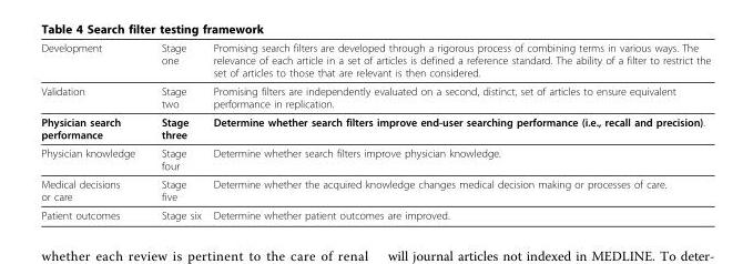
<table><thead><tr><td>Development</td><td>Stage one</td><td>Promising search filters are developed through a rigorous process of combining terms in various ways. The relevance of each article in a set of articles is defined a reference standard. The ability of a filter to restrict the set of articles to those that are relevant is then considered.</td></tr></thead><tbody><tr><td>Validation</td><td>Stage two</td><td>Promising filters are independently evaluated on a second, distinct, set of articles to ensure equivalent performance in replication.</td></tr><tr><td>Physician search performance</td><td>Stage three</td><td>Determine whether search filters improve end-user searching performance (i.e., recall and precision).</td></tr><tr><td>Physician knowledge</td><td>Stage four</td><td>Determine whether search filters improve physician knowledge.</td></tr><tr><td>Medical decisions or care</td><td>Stage five</td><td>Determine whether the acquired knowledge changes medical decision making or processes of care.</td></tr><tr><td>Patient outcomes</td><td>Stage six</td><td>Determine whether patient outcomes are improved.</td></tr></tbody></table>